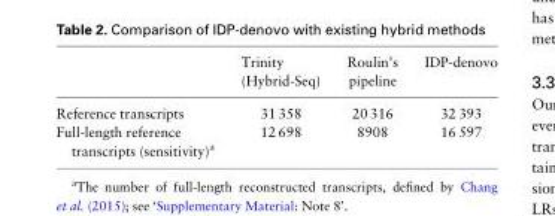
<table><thead><tr><td></td><td>Trinity (Hybrid-Seq)</td><td>Roulin’s pipeline</td><td>IDP-denovo</td></tr></thead><tbody><tr><td>Reference transcripts</td><td>31 358</td><td>20 316</td><td>32 393</td></tr><tr><td>Full-length reference transcripts (sensitivity)<sup>a</sup></td><td>12 698</td><td>8908</td><td>16 597</td></tr></tbody></table>